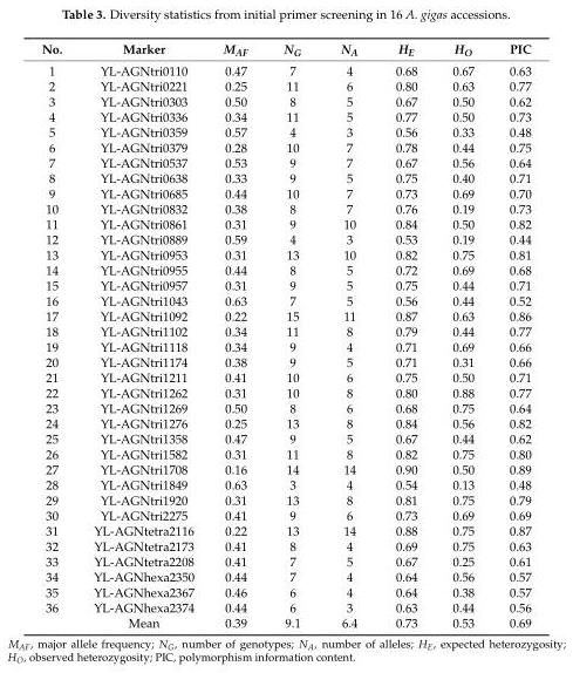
<table><thead><tr><td>No.</td><td>Marker</td><td>M<sub>AF</sub></td><td>N<sub>G</sub></td><td>N<sub>A</sub></td><td>H<sub>E</sub></td><td>H<sub>O</sub></td><td>PIC</td></tr></thead><tbody><tr><td>1</td><td>YL-AGNtri0110</td><td>0.47</td><td>7</td><td>4</td><td>0.68</td><td>0.67</td><td>0.63</td></tr><tr><td>2</td><td>YL-AGNtri0221</td><td>0.25</td><td>11</td><td>6</td><td>0.80</td><td>0.63</td><td>0.77</td></tr><tr><td>3</td><td>YL-AGNtri0303</td><td>0.50</td><td>8</td><td>5</td><td>0.67</td><td>0.50</td><td>0.62</td></tr><tr><td>4</td><td>YL-AGNtri0336</td><td>0.34</td><td>11</td><td>5</td><td>0.77</td><td>0.50</td><td>0.73</td></tr><tr><td>5</td><td>YL-AGNtri0359</td><td>0.57</td><td>4</td><td>3</td><td>0.56</td><td>0.33</td><td>0.48</td></tr><tr><td>6</td><td>YL-AGNtri0379</td><td>0.28</td><td>10</td><td>7</td><td>0.78</td><td>0.44</td><td>0.75</td></tr><tr><td>7</td><td>YL-AGNtri0537</td><td>0.53</td><td>9</td><td>7</td><td>0.67</td><td>0.56</td><td>0.64</td></tr><tr><td>8</td><td>YL-AGNtri0638</td><td>0.33</td><td>9</td><td>5</td><td>0.75</td><td>0.40</td><td>0.71</td></tr><tr><td>9</td><td>YL-AGNtri0685</td><td>0.44</td><td>10</td><td>7</td><td>0.73</td><td>0.69</td><td>0.70</td></tr><tr><td>10</td><td>YL-AGNtri0832</td><td>0.38</td><td>8</td><td>7</td><td>0.76</td><td>0.19</td><td>0.73</td></tr><tr><td>11</td><td>YL-AGNtri0861</td><td>0.31</td><td>9</td><td>10</td><td>0.84</td><td>0.50</td><td>0.82</td></tr><tr><td>12</td><td>YL-AGNtri0889</td><td>0.59</td><td>4</td><td>3</td><td>0.53</td><td>0.19</td><td>0.44</td></tr><tr><td>13</td><td>YL-AGNtri0953</td><td>0.31</td><td>13</td><td>10</td><td>0.82</td><td>0.75</td><td>0.81</td></tr><tr><td>14</td><td>YL-AGNtri0955</td><td>0.44</td><td>8</td><td>5</td><td>0.72</td><td>0.69</td><td>0.68</td></tr><tr><td>15</td><td>YL-AGNtri0957</td><td>0.31</td><td>9</td><td>5</td><td>0.75</td><td>0.44</td><td>0.71</td></tr><tr><td>16</td><td>YL-AGNtri1043</td><td>0.63</td><td>7</td><td>5</td><td>0.56</td><td>0.44</td><td>0.52</td></tr><tr><td>17</td><td>YL-AGNtri1092</td><td>0.22</td><td>15</td><td>11</td><td>0.87</td><td>0.63</td><td>0.86</td></tr><tr><td>18</td><td>YL-AGNtri1102</td><td>0.34</td><td>11</td><td>8</td><td>0.79</td><td>0.44</td><td>0.77</td></tr><tr><td>19</td><td>YL-AGNtri1118</td><td>0.34</td><td>9</td><td>4</td><td>0.71</td><td>0.69</td><td>0.66</td></tr><tr><td>20</td><td>YL-AGNtri1174</td><td>0.38</td><td>9</td><td>5</td><td>0.71</td><td>0.31</td><td>0.66</td></tr><tr><td>21</td><td>YL-AGNtri1211</td><td>0.41</td><td>10</td><td>6</td><td>0.75</td><td>0.50</td><td>0.71</td></tr><tr><td>22</td><td>YL-AGNtri1262</td><td>0.31</td><td>10</td><td>8</td><td>0.80</td><td>0.88</td><td>0.77</td></tr><tr><td>23</td><td>YL-AGNtri1269</td><td>0.50</td><td>8</td><td>6</td><td>0.68</td><td>0.75</td><td>0.64</td></tr><tr><td>24</td><td>YL-AGNtri1276</td><td>0.25</td><td>13</td><td>8</td><td>0.84</td><td>0.56</td><td>0.82</td></tr><tr><td>25</td><td>YL-AGNtri1358</td><td>0.47</td><td>9</td><td>5</td><td>0.67</td><td>0.44</td><td>0.62</td></tr><tr><td>26</td><td>YL-AGNtri1582</td><td>0.31</td><td>11</td><td>8</td><td>0.82</td><td>0.75</td><td>0.80</td></tr><tr><td>27</td><td>YL-AGNtri1708</td><td>0.16</td><td>14</td><td>14</td><td>0.90</td><td>0.50</td><td>0.89</td></tr><tr><td>28</td><td>YL-AGNtri1849</td><td>0.63</td><td>3</td><td>4</td><td>0.54</td><td>0.13</td><td>0.48</td></tr><tr><td>29</td><td>YL-AGNtri1920</td><td>0.31</td><td>13</td><td>8</td><td>0.81</td><td>0.75</td><td>0.79</td></tr><tr><td>30</td><td>YL-AGNtri2275</td><td>0.41</td><td>9</td><td>6</td><td>0.73</td><td>0.69</td><td>0.69</td></tr><tr><td>31</td><td>YL-AGNtetra2116</td><td>0.22</td><td>13</td><td>14</td><td>0.88</td><td>0.75</td><td>0.87</td></tr><tr><td>32</td><td>YL-AGNtetra2173</td><td>0.41</td><td>8</td><td>4</td><td>0.69</td><td>0.75</td><td>0.63</td></tr><tr><td>33</td><td>YL-AGNtetra2208</td><td>0.41</td><td>7</td><td>5</td><td>0.67</td><td>0.25</td><td>0.61</td></tr><tr><td>34</td><td>YL-AGNhexa2350</td><td>0.44</td><td>7</td><td>4</td><td>0.64</td><td>0.56</td><td>0.57</td></tr><tr><td>35</td><td>YL-AGNhexa2367</td><td>0.46</td><td>6</td><td>4</td><td>0.64</td><td>0.38</td><td>0.57</td></tr><tr><td rowspan="2">36</td><td>YL-AGNhexa2374</td><td>0.44</td><td>6</td><td>3</td><td>0.63</td><td>0.44</td><td>0.56</td></tr><tr><td>Mean</td><td>0.39</td><td>9.1</td><td>6.4</td><td>0.73</td><td>0.53</td><td>0.69</td></tr></tbody></table>